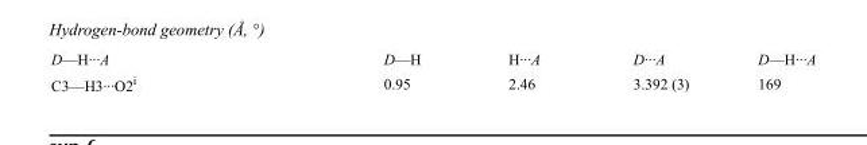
<table><tbody><tr><td>D—H···A</td><td>D—H</td><td>H···A</td><td>D···A</td><td>D—H···A</td></tr><tr><td>C3—H3···O2<sup>i</sup></td><td>0.95</td><td>2.46</td><td>3.392 (3)</td><td>169</td></tr></tbody></table>